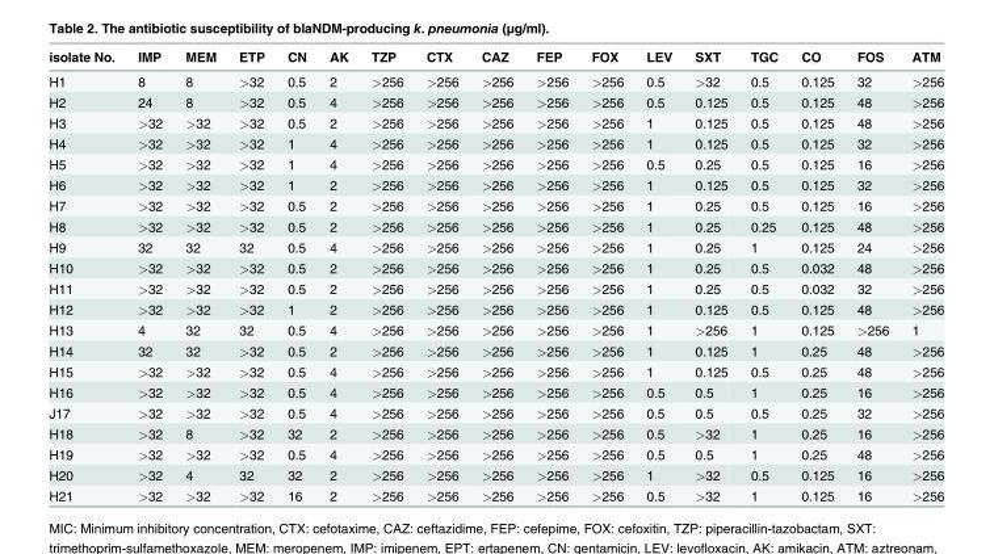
<table><thead><tr><td>isolate No.</td><td>IMP</td><td>MEM</td><td>ETP</td><td>CN</td><td>AK</td><td>TZP</td><td>CTX</td><td>CAZ</td><td>FEP</td><td>FOX</td><td>LEV</td><td>SXT</td><td>TGC</td><td>CO</td><td>FOS</td><td>ATM</td></tr></thead><tbody><tr><td>H1</td><td>8</td><td>8</td><td>&gt;32</td><td>0.5</td><td>2</td><td>&gt;256</td><td>&gt;256</td><td>&gt;256</td><td>&gt;256</td><td>&gt;256</td><td>0.5</td><td>&gt;32</td><td>0.5</td><td>0.125</td><td>32</td><td>&gt;256</td></tr><tr><td>H2</td><td>24</td><td>8</td><td>&gt;32</td><td>0.5</td><td>4</td><td>&gt;256</td><td>&gt;256</td><td>&gt;256</td><td>&gt;256</td><td>&gt;256</td><td>0.5</td><td>0.125</td><td>0.5</td><td>0.125</td><td>48</td><td>&gt;256</td></tr><tr><td>H3</td><td>&gt;32</td><td>&gt;32</td><td>&gt;32</td><td>0.5</td><td>2</td><td>&gt;256</td><td>&gt;256</td><td>&gt;256</td><td>&gt;256</td><td>&gt;256</td><td>1</td><td>0.125</td><td>0.5</td><td>0.125</td><td>48</td><td>&gt;256</td></tr><tr><td>H4</td><td>&gt;32</td><td>&gt;32</td><td>&gt;32</td><td>1</td><td>4</td><td>&gt;256</td><td>&gt;256</td><td>&gt;256</td><td>&gt;256</td><td>&gt;256</td><td>1</td><td>0.125</td><td>0.5</td><td>0.125</td><td>32</td><td>&gt;256</td></tr><tr><td>H5</td><td>&gt;32</td><td>&gt;32</td><td>&gt;32</td><td>1</td><td>4</td><td>&gt;256</td><td>&gt;256</td><td>&gt;256</td><td>&gt;256</td><td>&gt;256</td><td>0.5</td><td>0.25</td><td>0.5</td><td>0.125</td><td>16</td><td>&gt;256</td></tr><tr><td>H6</td><td>&gt;32</td><td>&gt;32</td><td>&gt;32</td><td>1</td><td>2</td><td>&gt;256</td><td>&gt;256</td><td>&gt;256</td><td>&gt;256</td><td>&gt;256</td><td>1</td><td>0.125</td><td>0.5</td><td>0.125</td><td>32</td><td>&gt;256</td></tr><tr><td>H7</td><td>&gt;32</td><td>&gt;32</td><td>&gt;32</td><td>0.5</td><td>2</td><td>&gt;256</td><td>&gt;256</td><td>&gt;256</td><td>&gt;256</td><td>&gt;256</td><td>1</td><td>0.25</td><td>0.5</td><td>0.125</td><td>16</td><td>&gt;256</td></tr><tr><td>H8</td><td>&gt;32</td><td>&gt;32</td><td>&gt;32</td><td>0.5</td><td>2</td><td>&gt;256</td><td>&gt;256</td><td>&gt;256</td><td>&gt;256</td><td>&gt;256</td><td>1</td><td>0.25</td><td>0.25</td><td>0.125</td><td>48</td><td>&gt;256</td></tr><tr><td>H9</td><td>32</td><td>32</td><td>32</td><td>0.5</td><td>4</td><td>&gt;256</td><td>&gt;256</td><td>&gt;256</td><td>&gt;256</td><td>&gt;256</td><td>1</td><td>0.25</td><td>1</td><td>0.125</td><td>24</td><td>&gt;256</td></tr><tr><td>H10</td><td>&gt;32</td><td>&gt;32</td><td>&gt;32</td><td>0.5</td><td>2</td><td>&gt;256</td><td>&gt;256</td><td>&gt;256</td><td>&gt;256</td><td>&gt;256</td><td>1</td><td>0.25</td><td>0.5</td><td>0.032</td><td>48</td><td>&gt;256</td></tr><tr><td>H11</td><td>&gt;32</td><td>&gt;32</td><td>&gt;32</td><td>0.5</td><td>2</td><td>&gt;256</td><td>&gt;256</td><td>&gt;256</td><td>&gt;256</td><td>&gt;256</td><td>1</td><td>0.25</td><td>0.5</td><td>0.032</td><td>32</td><td>&gt;256</td></tr><tr><td>H12</td><td>&gt;32</td><td>&gt;32</td><td>&gt;32</td><td>1</td><td>2</td><td>&gt;256</td><td>&gt;256</td><td>&gt;256</td><td>&gt;256</td><td>&gt;256</td><td>1</td><td>0.125</td><td>0.5</td><td>0.125</td><td>48</td><td>&gt;256</td></tr><tr><td>H13</td><td>4</td><td>32</td><td>32</td><td>0.5</td><td>4</td><td>&gt;256</td><td>&gt;256</td><td>&gt;256</td><td>&gt;256</td><td>&gt;256</td><td>1</td><td>&gt;256</td><td>1</td><td>0.125</td><td>&gt;256</td><td>1</td></tr><tr><td>H14</td><td>32</td><td>32</td><td>&gt;32</td><td>0.5</td><td>2</td><td>&gt;256</td><td>&gt;256</td><td>&gt;256</td><td>&gt;256</td><td>&gt;256</td><td>1</td><td>0.125</td><td>1</td><td>0.25</td><td>48</td><td>&gt;256</td></tr><tr><td>H15</td><td>&gt;32</td><td>&gt;32</td><td>&gt;32</td><td>0.5</td><td>4</td><td>&gt;256</td><td>&gt;256</td><td>&gt;256</td><td>&gt;256</td><td>&gt;256</td><td>1</td><td>0.125</td><td>0.5</td><td>0.25</td><td>48</td><td>&gt;256</td></tr><tr><td>H16</td><td>&gt;32</td><td>&gt;32</td><td>&gt;32</td><td>0.5</td><td>4</td><td>&gt;256</td><td>&gt;256</td><td>&gt;256</td><td>&gt;256</td><td>&gt;256</td><td>0.5</td><td>0.5</td><td>1</td><td>0.25</td><td>16</td><td>&gt;256</td></tr><tr><td>J17</td><td>&gt;32</td><td>&gt;32</td><td>&gt;32</td><td>0.5</td><td>4</td><td>&gt;256</td><td>&gt;256</td><td>&gt;256</td><td>&gt;256</td><td>&gt;256</td><td>0.5</td><td>0.5</td><td>0.5</td><td>0.25</td><td>32</td><td>&gt;256</td></tr><tr><td>H18</td><td>&gt;32</td><td>8</td><td>&gt;32</td><td>32</td><td>2</td><td>&gt;256</td><td>&gt;256</td><td>&gt;256</td><td>&gt;256</td><td>&gt;256</td><td>0.5</td><td>&gt;32</td><td>1</td><td>0.25</td><td>16</td><td>&gt;256</td></tr><tr><td>H19</td><td>&gt;32</td><td>&gt;32</td><td>&gt;32</td><td>0.5</td><td>4</td><td>&gt;256</td><td>&gt;256</td><td>&gt;256</td><td>&gt;256</td><td>&gt;256</td><td>0.5</td><td>0.5</td><td>1</td><td>0.25</td><td>48</td><td>&gt;256</td></tr><tr><td>H20</td><td>&gt;32</td><td>4</td><td>32</td><td>32</td><td>2</td><td>&gt;256</td><td>&gt;256</td><td>&gt;256</td><td>&gt;256</td><td>&gt;256</td><td>1</td><td>&gt;32</td><td>0.5</td><td>0.125</td><td>16</td><td>&gt;256</td></tr><tr><td>H21</td><td>&gt;32</td><td>&gt;32</td><td>&gt;32</td><td>16</td><td>2</td><td>&gt;256</td><td>&gt;256</td><td>&gt;256</td><td>&gt;256</td><td>&gt;256</td><td>0.5</td><td>&gt;32</td><td>1</td><td>0.125</td><td>16</td><td>&gt;256</td></tr></tbody></table>